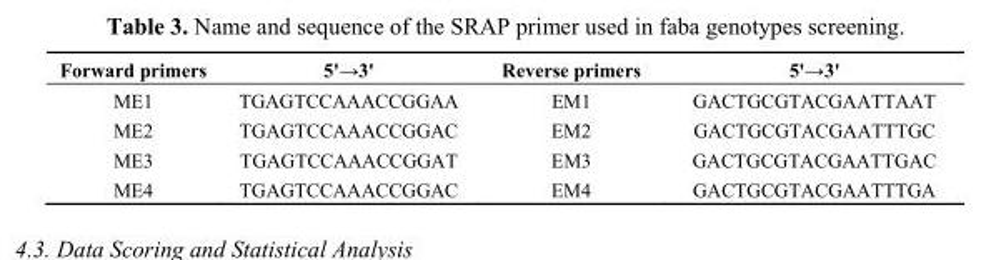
<table><thead><tr><td>Forward primers</td><td>5&#x27;→3&#x27;</td><td>Reverse primers</td><td>5&#x27;→3&#x27;</td></tr></thead><tbody><tr><td>ME1</td><td>TGAGTCCAAACCGGAA</td><td>EM1</td><td>GACTGCGTACGAATTAAT</td></tr><tr><td>ME2</td><td>TGAGTCCAAACCGGAC</td><td>EM2</td><td>GACTGCGTACGAATTTGC</td></tr><tr><td>ME3</td><td>TGAGTCCAAACCGGAT</td><td>EM3</td><td>GACTGCGTACGAATTGAC</td></tr><tr><td>ME4</td><td>TGAGTCCAAACCGGAC</td><td>EM4</td><td>GACTGCGTACGAATTTGA</td></tr></tbody></table>